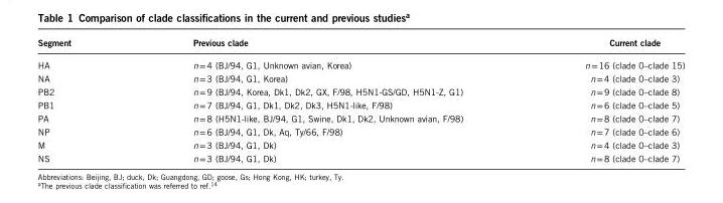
<table><thead><tr><td>Segment</td><td>Previous clade</td><td>Current clade</td></tr></thead><tbody><tr><td>HA</td><td>n = 4 (BJ/94, G1, Unknown avian, Korea)</td><td>n = 16 (clade 0–clade 15)</td></tr><tr><td>NA</td><td>n = 3 (BJ/94, G1, Korea)</td><td>n = 4 (clade 0–clade 3)</td></tr><tr><td>PB2</td><td>n = 9 (BJ/94, Korea, Dk1, Dk2, GX, F/98, H5N1-GS/GD, H5N1-Z, G1)</td><td>n = 9 (clade 0–clade 8)</td></tr><tr><td>PB1</td><td>n = 7 (BJ/94, G1, Dk1, Dk2, Dk3, H5N1-like, F/98)</td><td>n = 6 (clade 0–clade 5)</td></tr><tr><td>PA</td><td>n = 8 (H5N1-like, BJ/94, G1, Swine, Dk1, Dk2, Unknown avian, F/98)</td><td>n = 8 (clade 0–clade 7)</td></tr><tr><td>NP</td><td>n = 6 (BJ/94, G1, Dk, Aq, Ty/66, F/98)</td><td>n = 7 (clade 0–clade 6)</td></tr><tr><td>M</td><td>n = 3 (BJ/94, G1, Dk)</td><td>n = 4 (clade 0–clade 3)</td></tr><tr><td>NS</td><td>n = 3 (BJ/94, G1, Dk)</td><td>n = 8 (clade 0–clade 7)</td></tr></tbody></table>